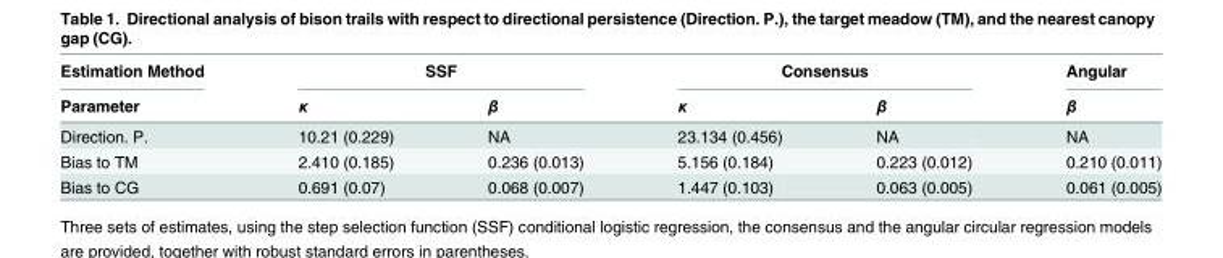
<table><thead><tr><td rowspan="2">Estimation Method Parameter</td><td colspan="2">SSF</td><td colspan="2">Consensus</td><td rowspan="2">Angular β</td></tr><tr><td>κ</td><td>β</td><td>κ</td><td>β</td></tr></thead><tbody><tr><td>Direction. P.</td><td>10.21 (0.229)</td><td>NA</td><td>23.134 (0.456)</td><td>NA</td><td>NA</td></tr><tr><td>Bias to TM</td><td>2.410 (0.185)</td><td>0.236 (0.013)</td><td>5.156 (0.184)</td><td>0.223 (0.012)</td><td>0.210 (0.011)</td></tr><tr><td>Bias to CG</td><td>0.691 (0.07)</td><td>0.068 (0.007)</td><td>1.447 (0.103)</td><td>0.063 (0.005)</td><td>0.061 (0.005)</td></tr></tbody></table>